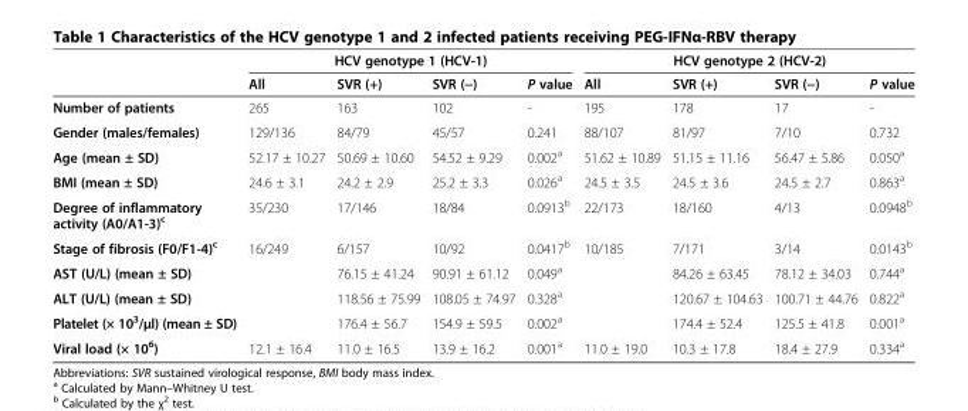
<table><thead><tr><td rowspan="2"></td><td colspan="4">HCV genotype 1 (HCV-1)</td><td colspan="4">HCV genotype 2 (HCV-2)</td></tr><tr><td>All</td><td>SVR (+)</td><td>SVR (−)</td><td>P value</td><td>All</td><td>SVR (+)</td><td>SVR (−)</td><td>P value</td></tr></thead><tbody><tr><td>Number of patients</td><td>265</td><td>163</td><td>102</td><td>-</td><td>195</td><td>178</td><td>17</td><td>-</td></tr><tr><td>Gender (males/females)</td><td>129/136</td><td>84/79</td><td>45/57</td><td>0.241</td><td>88/107</td><td>81/97</td><td>7/10</td><td>0.732</td></tr><tr><td>Age (mean ± SD)</td><td>52.17 ± 10.27</td><td>50.69 ± 10.60</td><td>54.52 ± 9.29</td><td>0.002<sup>a</sup></td><td>51.62 ± 10.89</td><td>51.15 ± 11.16</td><td>56.47 ± 5.86</td><td>0.050<sup>a</sup></td></tr><tr><td>BMI (mean ± SD)</td><td>24.6 ± 3.1</td><td>24.2 ± 2.9</td><td>25.2 ± 3.3</td><td>0.026<sup>a</sup></td><td>24.5 ± 3.5</td><td>24.5 ± 3.6</td><td>24.5 ± 2.7</td><td>0.863<sup>a</sup></td></tr><tr><td>Degree of inflammatory activity (A0/A1-3)<sup>c</sup></td><td>35/230</td><td>17/146</td><td>18/84</td><td>0.0913<sup>b</sup></td><td>22/173</td><td>18/160</td><td>4/13</td><td>0.0948<sup>b</sup></td></tr><tr><td>Stage of fibrosis (F0/F1-4)<sup>c</sup></td><td>16/249</td><td>6/157</td><td>10/92</td><td>0.0417<sup>b</sup></td><td>10/185</td><td>7/171</td><td>3/14</td><td>0.0143<sup>b</sup></td></tr><tr><td>AST (U/L) (mean ± SD)</td><td></td><td>76.15 ± 41.24</td><td>90.91 ± 61.12</td><td>0.049<sup>a</sup></td><td></td><td>84.26 ± 63.45</td><td>78.12 ± 34.03</td><td>0.744<sup>a</sup></td></tr><tr><td>ALT (U/L) (mean ± SD)</td><td></td><td>118.56 ± 75.99</td><td>108.05 ± 74.97</td><td>0.328<sup>a</sup></td><td></td><td>120.67 ± 104.63</td><td>100.71 ± 44.76</td><td>0.822<sup>a</sup></td></tr><tr><td>Platelet (× 10<sup>3</sup>/μl) (mean ± SD)</td><td></td><td>176.4 ± 56.7</td><td>154.9 ± 59.5</td><td>0.002<sup>a</sup></td><td></td><td>174.4 ± 52.4</td><td>125.5 ± 41.8</td><td>0.001<sup>a</sup></td></tr><tr><td>Viral load (× 10<sup>6</sup>)</td><td>12.1 ± 16.4</td><td>11.0 ± 16.5</td><td>13.9 ± 16.2</td><td>0.001<sup>a</sup></td><td>11.0 ± 19.0</td><td>10.3 ± 17.8</td><td>18.4 ± 27.9</td><td>0.334<sup>a</sup></td></tr></tbody></table>